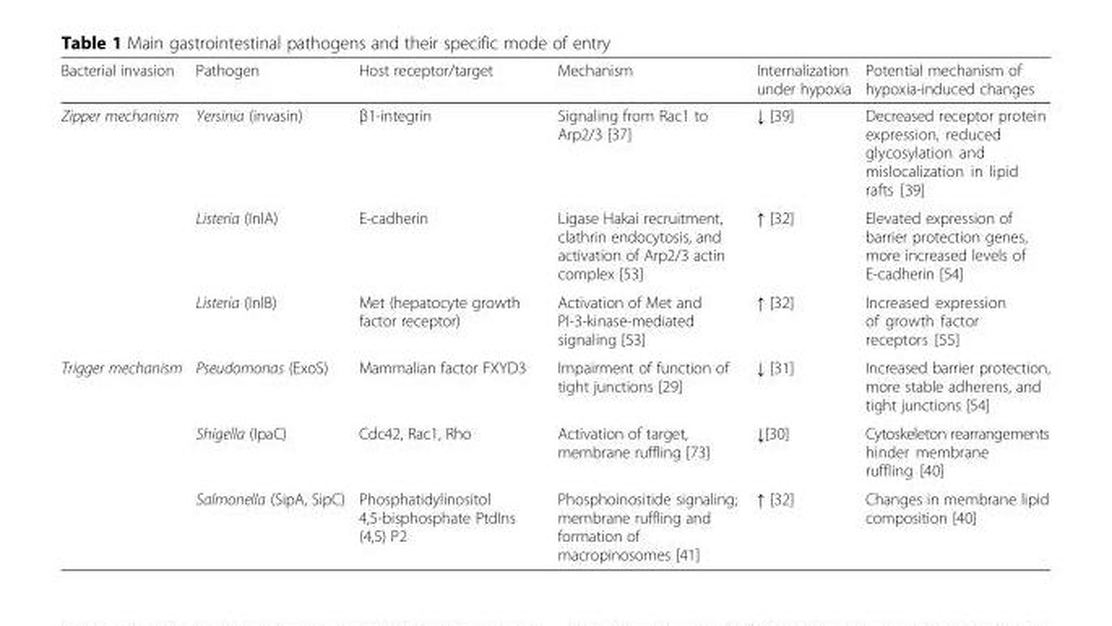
<table><thead><tr><td>Bacterial invasion</td><td>Pathogen</td><td>Host receptor/target</td><td>Mechanism</td><td>Internalization under hypoxia</td><td>Potential mechanism of hypoxia-induced changes</td></tr></thead><tbody><tr><td rowspan="3">Zipper mechanism</td><td>Yersinia (invasin)</td><td>β1-integrin</td><td>Signaling from Rac1 to Arp2/3 [37]</td><td>↓ [39]</td><td>Decreased receptor protein expression, reduced glycosylation and mislocalization in lipid rafts [39]</td></tr><tr><td>Listeria (InlA)</td><td>E-cadherin</td><td>Ligase Hakai recruitment, clathrin endocytosis, and activation of Arp2/3 actin complex [53]</td><td>↑ [32]</td><td>Elevated expression of barrier protection genes, more increased levels of E-cadherin [54]</td></tr><tr><td>Listeria (InlB)</td><td>Met (hepatocyte growth factor receptor)</td><td>Activation of Met and PI-3-kinase-mediated signaling [53]</td><td>↑ [32]</td><td>Increased expression of growth factor receptors [55]</td></tr><tr><td rowspan="3">Trigger mechanism</td><td>Pseudomonas (ExoS)</td><td>Mammalian factor FXYD3</td><td>Impairment of function of tight junctions [29]</td><td>↓ [31]</td><td>Increased barrier protection, more stable adherens, and tight junctions [54]</td></tr><tr><td>Shigella (IpaC)</td><td>Cdc42, Rac1, Rho</td><td>Activation of target, membrane ruffling [73]</td><td>↓[30]</td><td>Cytoskeleton rearrangements hinder membrane ruffling [40]</td></tr><tr><td>Salmonella (SipA, SipC)</td><td>Phosphatidylinositol 4,5-bisphosphate PtdIns (4,5) P2</td><td>Phosphoinositide signaling; membrane ruffling and formation of macropinosomes [41]</td><td>↑ [32]</td><td>Changes in membrane lipid composition [40]</td></tr></tbody></table>